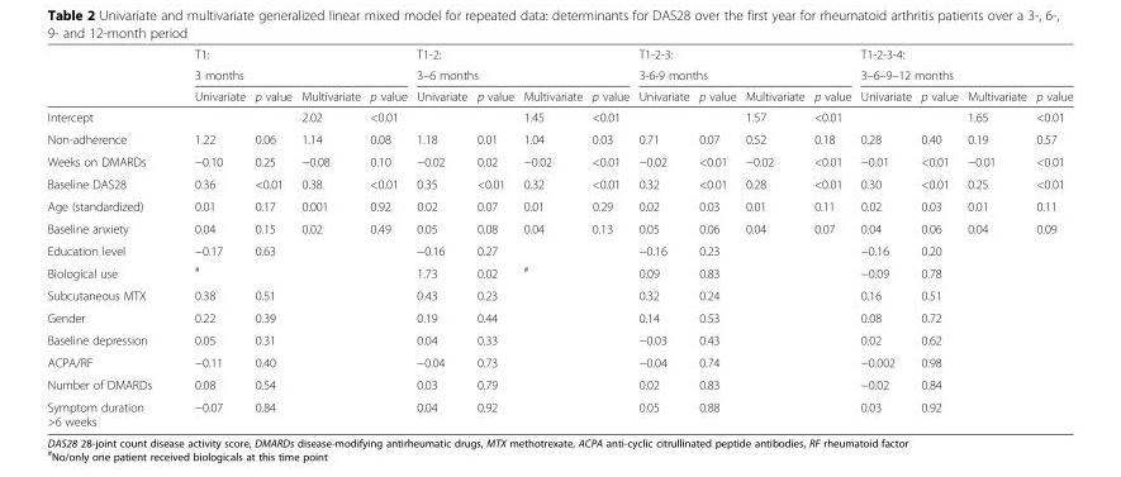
<table><thead><tr><td rowspan="3"></td><td>T1:</td><td></td><td></td><td></td><td>T1-2:</td><td></td><td></td><td></td><td>T1-2-3:</td><td></td><td></td><td></td><td>T1-2-3-4:</td><td></td><td></td><td></td></tr><tr><td colspan="4">3 months</td><td colspan="4">3–6 months</td><td colspan="4">3-6-9 months</td><td colspan="4">3–6–9–12 months</td></tr><tr><td>Univariate</td><td>p value</td><td>Multivariate</td><td>p value</td><td>Univariate</td><td>p value</td><td>Multivariate</td><td>p value</td><td>Univariate</td><td>p value</td><td>Multivariate</td><td>p value</td><td>Univariate</td><td>p value</td><td>Multivariate</td><td>p value</td></tr></thead><tbody><tr><td>Intercept</td><td></td><td></td><td>2.02</td><td>&lt;0.01</td><td></td><td></td><td>1.45</td><td>&lt;0.01</td><td></td><td></td><td>1.57</td><td>&lt;0.01</td><td></td><td></td><td>1.65</td><td>&lt;0.01</td></tr><tr><td>Non-adherence</td><td>1.22</td><td>0.06</td><td>1.14</td><td>0.08</td><td>1.18</td><td>0.01</td><td>1.04</td><td>0.03</td><td>0.71</td><td>0.07</td><td>0.52</td><td>0.18</td><td>0.28</td><td>0.40</td><td>0.19</td><td>0.57</td></tr><tr><td>Weeks on DMARDs</td><td>−0.10</td><td>0.25</td><td>−0.08</td><td>0.10</td><td>−0.02</td><td>0.02</td><td>−0.02</td><td>&lt;0.01</td><td>−0.02</td><td>&lt;0.01</td><td>−0.02</td><td>&lt;0.01</td><td>−0.01</td><td>&lt;0.01</td><td>−0.01</td><td>&lt;0.01</td></tr><tr><td>Baseline DAS28</td><td>0.36</td><td>&lt;0.01</td><td>0.38</td><td>&lt;0.01</td><td>0.35</td><td>&lt;0.01</td><td>0.32</td><td>&lt;0.01</td><td>0.32</td><td>&lt;0.01</td><td>0.28</td><td>&lt;0.01</td><td>0.30</td><td>&lt;0.01</td><td>0.25</td><td>&lt;0.01</td></tr><tr><td>Age (standardized)</td><td>0.01</td><td>0.17</td><td>0.001</td><td>0.92</td><td>0.02</td><td>0.07</td><td>0.01</td><td>0.29</td><td>0.02</td><td>0.03</td><td>0.01</td><td>0.11</td><td>0.02</td><td>0.03</td><td>0.01</td><td>0.11</td></tr><tr><td>Baseline anxiety</td><td>0.04</td><td>0.15</td><td>0.02</td><td>0.49</td><td>0.05</td><td>0.08</td><td>0.04</td><td>0.13</td><td>0.05</td><td>0.06</td><td>0.04</td><td>0.07</td><td>0.04</td><td>0.06</td><td>0.04</td><td>0.09</td></tr><tr><td>Education level</td><td>−0.17</td><td>0.63</td><td></td><td></td><td>−0.16</td><td>0.27</td><td></td><td></td><td>−0.16</td><td>0.23</td><td></td><td></td><td>−0.16</td><td>0.20</td><td></td><td></td></tr><tr><td>Biological use</td><td><sup>#</sup></td><td></td><td></td><td></td><td>1.73</td><td>0.02</td><td><sup>#</sup></td><td></td><td>0.09</td><td>0.83</td><td></td><td></td><td>−0.09</td><td>0.78</td><td></td><td></td></tr><tr><td>Subcutaneous MTX</td><td>0.38</td><td>0.51</td><td></td><td></td><td>0.43</td><td>0.23</td><td></td><td></td><td>0.32</td><td>0.24</td><td></td><td></td><td>0.16</td><td>0.51</td><td></td><td></td></tr><tr><td>Gender</td><td>0.22</td><td>0.39</td><td></td><td></td><td>0.19</td><td>0.44</td><td></td><td></td><td>0.14</td><td>0.53</td><td></td><td></td><td>0.08</td><td>0.72</td><td></td><td></td></tr><tr><td>Baseline depression</td><td>0.05</td><td>0.31</td><td></td><td></td><td>0.04</td><td>0.33</td><td></td><td></td><td>−0.03</td><td>0.43</td><td></td><td></td><td>0.02</td><td>0.62</td><td></td><td></td></tr><tr><td>ACPA/RF</td><td>−0.11</td><td>0.40</td><td></td><td></td><td>−0.04</td><td>0.73</td><td></td><td></td><td>−0.04</td><td>0.74</td><td></td><td></td><td>−0.002</td><td>0.98</td><td></td><td></td></tr><tr><td>Number of DMARDs</td><td>0.08</td><td>0.54</td><td></td><td></td><td>0.03</td><td>0.79</td><td></td><td></td><td>0.02</td><td>0.83</td><td></td><td></td><td>−0.02</td><td>0.84</td><td></td><td></td></tr><tr><td>Symptom duration &gt;6 weeks</td><td>−0.07</td><td>0.84</td><td></td><td></td><td>0.04</td><td>0.92</td><td></td><td></td><td>0.05</td><td>0.88</td><td></td><td></td><td>0.03</td><td>0.92</td><td></td><td></td></tr></tbody></table>